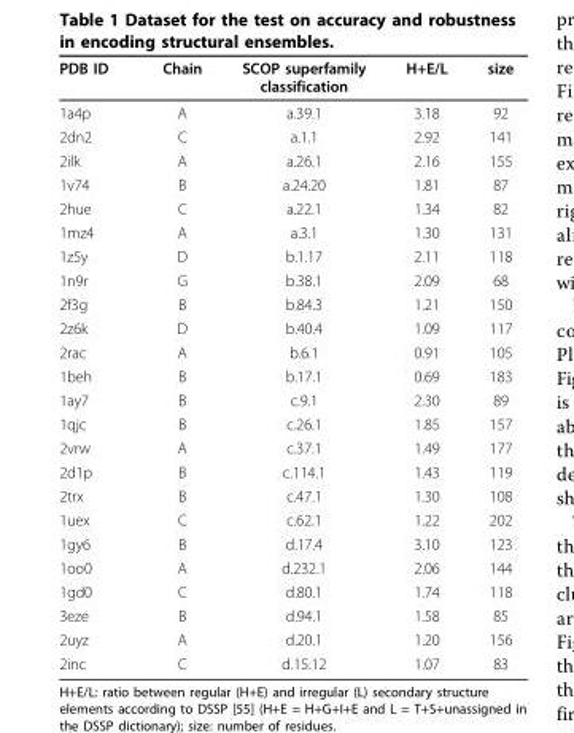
<table><thead><tr><td>PDB ID</td><td>Chain</td><td>SCOP superfamily classification</td><td>H+E/L</td><td>size</td></tr></thead><tbody><tr><td>1a4p</td><td>A</td><td>a.39.1</td><td>3.18</td><td>92</td></tr><tr><td>2dn2</td><td>C</td><td>a.1.1</td><td>2.92</td><td>141</td></tr><tr><td>2ilk</td><td>A</td><td>a.26.1</td><td>2.16</td><td>155</td></tr><tr><td>1v74</td><td>B</td><td>a.24.20</td><td>1.81</td><td>87</td></tr><tr><td>2hue</td><td>C</td><td>a.22.1</td><td>1.34</td><td>82</td></tr><tr><td>1mz4</td><td>A</td><td>a.3.1</td><td>1.30</td><td>131</td></tr><tr><td>1z5y</td><td>D</td><td>b.1.17</td><td>2.11</td><td>118</td></tr><tr><td>1n9r</td><td>G</td><td>b.38.1</td><td>2.09</td><td>68</td></tr><tr><td>2f3g</td><td>B</td><td>b.84.3</td><td>1.21</td><td>150</td></tr><tr><td>2z6k</td><td>D</td><td>b.40.4</td><td>1.09</td><td>117</td></tr><tr><td>2rac</td><td>A</td><td>b.6.1</td><td>0.91</td><td>105</td></tr><tr><td>1beh</td><td>B</td><td>b.17.1</td><td>0.69</td><td>183</td></tr><tr><td>1ay7</td><td>B</td><td>c.9.1</td><td>2.30</td><td>89</td></tr><tr><td>1qjc</td><td>B</td><td>c.26.1</td><td>1.85</td><td>157</td></tr><tr><td>2vrw</td><td>A</td><td>c.37.1</td><td>1.49</td><td>177</td></tr><tr><td>2d1p</td><td>B</td><td>c.114.1</td><td>1.43</td><td>119</td></tr><tr><td>2trx</td><td>B</td><td>c.47.1</td><td>1.30</td><td>108</td></tr><tr><td>1uex</td><td>C</td><td>c.62.1</td><td>1.22</td><td>202</td></tr><tr><td>1gy6</td><td>B</td><td>d.17.4</td><td>3.10</td><td>123</td></tr><tr><td>1oo0</td><td>A</td><td>d.232.1</td><td>2.06</td><td>144</td></tr><tr><td>1gd0</td><td>C</td><td>d.80.1</td><td>1.74</td><td>118</td></tr><tr><td>3eze</td><td>B</td><td>d.94.1</td><td>1.58</td><td>85</td></tr><tr><td>2uyz</td><td>A</td><td>d.20.1</td><td>1.20</td><td>156</td></tr><tr><td>2inc</td><td>C</td><td>d.15.12</td><td>1.07</td><td>83</td></tr></tbody></table>